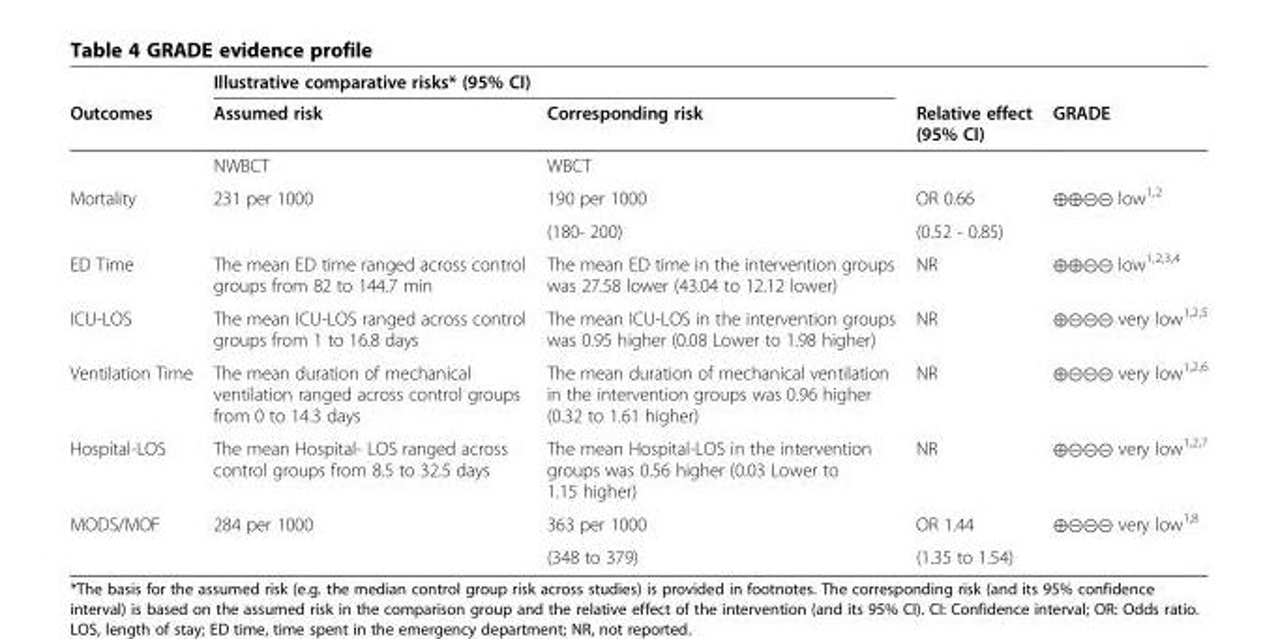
<table><thead><tr><td rowspan="2">Outcomes</td><td colspan="2">Illustrative comparative risks* (95% CI)</td><td rowspan="2">Relative effect (95% CI)</td><td rowspan="2">GRADE</td></tr><tr><td>Assumed risk</td><td>Corresponding risk</td></tr></thead><tbody><tr><td></td><td>NWBCT</td><td>WBCT</td><td></td><td></td></tr><tr><td rowspan="2">Mortality</td><td rowspan="2">231 per 1000</td><td>190 per 1000</td><td>OR 0.66</td><td rowspan="2">⊕⊕⊝⊝ low<sup>1,2</sup></td></tr><tr><td>(180- 200)</td><td>(0.52 - 0.85)</td></tr><tr><td>ED Time</td><td>The mean ED time ranged across control groups from 82 to 144.7 min</td><td>The mean ED time in the intervention groups was 27.58 lower (43.04 to 12.12 lower)</td><td>NR</td><td>⊕⊕⊝⊝ low<sup>1,2,3,4</sup></td></tr><tr><td>ICU-LOS</td><td>The mean ICU-LOS ranged across control groups from 1 to 16.8 days</td><td>The mean ICU-LOS in the intervention groups was 0.95 higher (0.08 Lower to 1.98 higher)</td><td>NR</td><td>⊕⊝⊝⊝ very low<sup>1,2,5</sup></td></tr><tr><td>Ventilation Time</td><td>The mean duration of mechanical ventilation ranged across control groups from 0 to 14.3 days</td><td>The mean duration of mechanical ventilation in the intervention groups was 0.96 higher (0.32 to 1.61 higher)</td><td>NR</td><td>⊕⊝⊝⊝ very low<sup>1,2,6</sup></td></tr><tr><td>Hospital-LOS</td><td>The mean Hospital- LOS ranged across control groups from 8.5 to 32.5 days</td><td>The mean Hospital-LOS in the intervention groups was 0.56 higher (0.03 Lower to 1.15 higher)</td><td>NR</td><td>⊕⊝⊝⊝ very low<sup>1,2,7</sup></td></tr><tr><td rowspan="2">MODS/MOF</td><td rowspan="2">284 per 1000</td><td>363 per 1000</td><td>OR 1.44</td><td rowspan="2">⊕⊝⊝⊝ very low<sup>1,8</sup></td></tr><tr><td>(348 to 379)</td><td>(1.35 to 1.54)</td></tr></tbody></table>